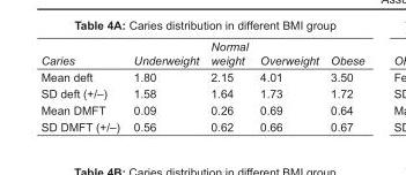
<table><tbody><tr><td>Caries</td><td>Underweight</td><td>Normal weight</td><td>Overweight</td><td>Obese</td></tr><tr><td>Mean deft</td><td>1.80</td><td>2.15</td><td>4.01</td><td>3.50</td></tr><tr><td>SD deft (+/–)</td><td>1.58</td><td>1.64</td><td>1.73</td><td>1.72</td></tr><tr><td>Mean DMFT</td><td>0.09</td><td>0.26</td><td>0.69</td><td>0.64</td></tr><tr><td>SD DMFT (+/–)</td><td>0.56</td><td>0.62</td><td>0.66</td><td>0.67</td></tr></tbody></table>